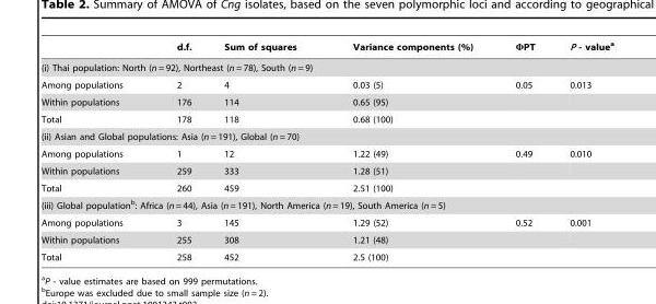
<table><thead><tr><td></td><td>d.f.</td><td>Sum of squares</td><td>Variance components (%)</td><td>ΦPT</td><td>P - value<sup>a</sup></td></tr></thead><tbody><tr><td colspan="6">(i) Thai population: North (n = 92), Northeast (n = 78), South (n = 9)</td></tr><tr><td>Among populations</td><td>2</td><td>4</td><td>0.03 (5)</td><td>0.05</td><td>0.013</td></tr><tr><td>Within populations</td><td>176</td><td>114</td><td>0.65 (95)</td><td></td><td></td></tr><tr><td>Total</td><td>178</td><td>118</td><td>0.68 (100)</td><td></td><td></td></tr><tr><td colspan="6">(ii) Asian and Global populations: Asia (n = 191), Global (n = 70)</td></tr><tr><td>Among populations</td><td>1</td><td>12</td><td>1.22 (49)</td><td>0.49</td><td>0.010</td></tr><tr><td>Within populations</td><td>259</td><td>333</td><td>1.28 (51)</td><td></td><td></td></tr><tr><td>Total</td><td>260</td><td>459</td><td>2.51 (100)</td><td></td><td></td></tr><tr><td colspan="6">(iii) Global population<sup>b</sup>: Africa (n = 44), Asia (n = 191), North America (n = 19), South America (n = 5)</td></tr><tr><td>Among populations</td><td>3</td><td>145</td><td>1.29 (52)</td><td>0.52</td><td>0.001</td></tr><tr><td>Within populations</td><td>255</td><td>308</td><td>1.21 (48)</td><td></td><td></td></tr><tr><td>Total</td><td>258</td><td>452</td><td>2.5 (100)</td><td></td><td></td></tr></tbody></table>